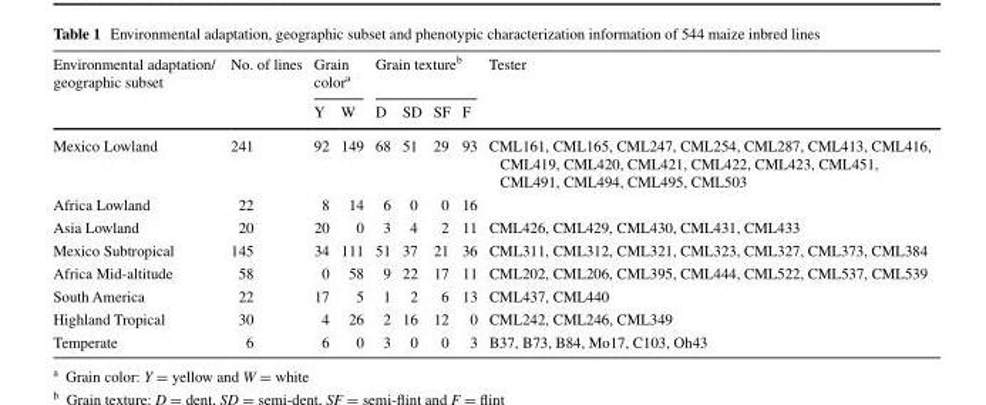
<table><thead><tr><td rowspan="2">Environmental adaptation/ geographic subset</td><td rowspan="2">No. of lines</td><td colspan="2">Grain color<sup>a</sup></td><td colspan="4">Grain texture<sup>b</sup></td><td rowspan="2">Tester</td></tr><tr><td>Y</td><td>W</td><td>D</td><td>SD</td><td>SF</td><td>F</td></tr></thead><tbody><tr><td>Mexico Lowland</td><td>241</td><td>92</td><td>149</td><td>68</td><td>51</td><td>29</td><td>93</td><td>CML161, CML165, CML247, CML254, CML287, CML413, CML416, CML419, CML420, CML421, CML422, CML423, CML451, CML491, CML494, CML495, CML503</td></tr><tr><td>Africa Lowland</td><td>22</td><td>8</td><td>14</td><td>6</td><td>0</td><td>0</td><td>16</td><td></td></tr><tr><td>Asia Lowland</td><td>20</td><td>20</td><td>0</td><td>3</td><td>4</td><td>2</td><td>11</td><td>CML426, CML429, CML430, CML431, CML433</td></tr><tr><td>Mexico Subtropical</td><td>145</td><td>34</td><td>111</td><td>51</td><td>37</td><td>21</td><td>36</td><td>CML311, CML312, CML321, CML323, CML327, CML373, CML384</td></tr><tr><td>Africa Mid-altitude</td><td>58</td><td>0</td><td>58</td><td>9</td><td>22</td><td>17</td><td>11</td><td>CML202, CML206, CML395, CML444, CML522, CML537, CML539</td></tr><tr><td>South America</td><td>22</td><td>17</td><td>5</td><td>1</td><td>2</td><td>6</td><td>13</td><td>CML437, CML440</td></tr><tr><td>Highland Tropical</td><td>30</td><td>4</td><td>26</td><td>2</td><td>16</td><td>12</td><td>0</td><td>CML242, CML246, CML349</td></tr><tr><td>Temperate</td><td>6</td><td>6</td><td>0</td><td>3</td><td>0</td><td>0</td><td>3</td><td>B37, B73, B84, Mo17, C103, Oh43</td></tr></tbody></table>